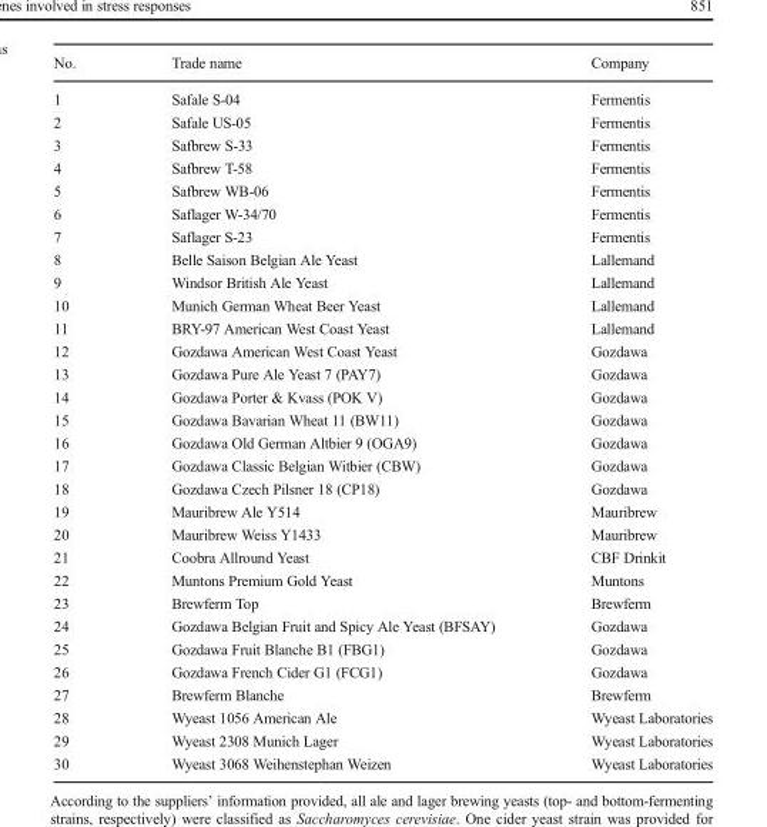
<table><thead><tr><td>No.</td><td>Trade name</td><td>Company</td></tr></thead><tbody><tr><td>1</td><td>Safale S-04</td><td>Fermentis</td></tr><tr><td>2</td><td>Safale US-05</td><td>Fermentis</td></tr><tr><td>3</td><td>Safbrew S-33</td><td>Fermentis</td></tr><tr><td>4</td><td>Safbrew T-58</td><td>Fermentis</td></tr><tr><td>5</td><td>Safbrew WB-06</td><td>Fermentis</td></tr><tr><td>6</td><td>Saflager W-34/70</td><td>Fermentis</td></tr><tr><td>7</td><td>Saflager S-23</td><td>Fermentis</td></tr><tr><td>8</td><td>Belle Saison Belgian Ale Yeast</td><td>Lallemand</td></tr><tr><td>9</td><td>Windsor British Ale Yeast</td><td>Lallemand</td></tr><tr><td>10</td><td>Munich German Wheat Beer Yeast</td><td>Lallemand</td></tr><tr><td>11</td><td>BRY-97 American West Coast Yeast</td><td>Lallemand</td></tr><tr><td>12</td><td>Gozdawa American West Coast Yeast</td><td>Gozdawa</td></tr><tr><td>13</td><td>Gozdawa Pure Ale Yeast 7 (PAY7)</td><td>Gozdawa</td></tr><tr><td>14</td><td>Gozdawa Porter &amp; Kvass (POK V)</td><td>Gozdawa</td></tr><tr><td>15</td><td>Gozdawa Bavarian Wheat 11 (BW11)</td><td>Gozdawa</td></tr><tr><td>16</td><td>Gozdawa Old German Altbier 9 (OGA9)</td><td>Gozdawa</td></tr><tr><td>17</td><td>Gozdawa Classic Belgian Witbier (CBW)</td><td>Gozdawa</td></tr><tr><td>18</td><td>Gozdawa Czech Pilsner 18 (CP18)</td><td>Gozdawa</td></tr><tr><td>19</td><td>Mauribrew Ale Y514</td><td>Mauribrew</td></tr><tr><td>20</td><td>Mauribrew Weiss Y1433</td><td>Mauribrew</td></tr><tr><td>21</td><td>Coobra Allround Yeast</td><td>CBF Drinkit</td></tr><tr><td>22</td><td>Muntons Premium Gold Yeast</td><td>Muntons</td></tr><tr><td>23</td><td>Brewferm Top</td><td>Brewferm</td></tr><tr><td>24</td><td>Gozdawa Belgian Fruit and Spicy Ale Yeast (BFSAY)</td><td>Gozdawa</td></tr><tr><td>25</td><td>Gozdawa Fruit Blanche B1 (FBG1)</td><td>Gozdawa</td></tr><tr><td>26</td><td>Gozdawa French Cider G1 (FCG1)</td><td>Gozdawa</td></tr><tr><td>27</td><td>Brewferm Blanche</td><td>Brewferm</td></tr><tr><td>28</td><td>Wyeast 1056 American Ale</td><td>Wyeast Laboratories</td></tr><tr><td>29</td><td>Wyeast 2308 Munich Lager</td><td>Wyeast Laboratories</td></tr><tr><td>30</td><td>Wyeast 3068 Weihenstephan Weizen</td><td>Wyeast Laboratories</td></tr></tbody></table>